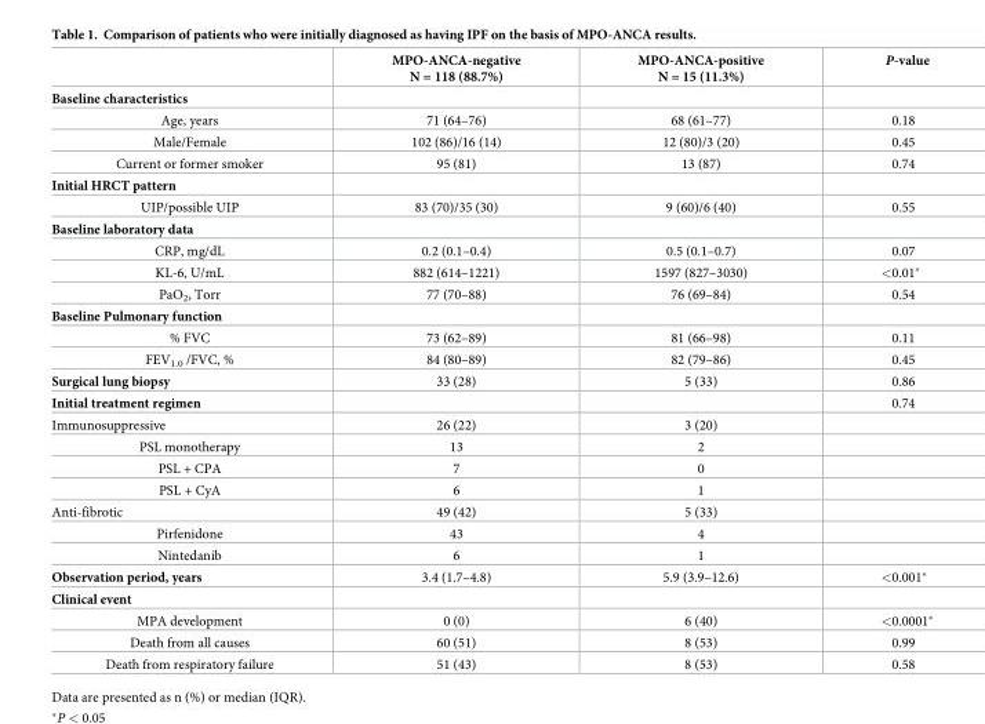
<table><thead><tr><td></td><td>MPO-ANCA-negative N = 118 (88.7%)</td><td>MPO-ANCA-positive N = 15 (11.3%)</td><td>P-value</td></tr></thead><tbody><tr><td colspan="4">Baseline characteristics</td></tr><tr><td>Age, years</td><td>71 (64–76)</td><td>68 (61–77)</td><td>0.18</td></tr><tr><td>Male/Female</td><td>102 (86)/16 (14)</td><td>12 (80)/3 (20)</td><td>0.45</td></tr><tr><td>Current or former smoker</td><td>95 (81)</td><td>13 (87)</td><td>0.74</td></tr><tr><td colspan="4">Initial HRCT pattern</td></tr><tr><td>UIP/possible UIP</td><td>83 (70)/35 (30)</td><td>9 (60)/6 (40)</td><td>0.55</td></tr><tr><td colspan="4">Baseline laboratory data</td></tr><tr><td>CRP, mg/dL</td><td>0.2 (0.1–0.4)</td><td>0.5 (0.1–0.7)</td><td>0.07</td></tr><tr><td>KL-6, U/mL</td><td>882 (614–1221)</td><td>1597 (827–3030)</td><td>&lt;0.01*</td></tr><tr><td>PaO<sub>2</sub>, Torr</td><td>77 (70–88)</td><td>76 (69–84)</td><td>0.54</td></tr><tr><td colspan="4">Baseline Pulmonary function</td></tr><tr><td>% FVC</td><td>73 (62–89)</td><td>81 (66–98)</td><td>0.11</td></tr><tr><td>FEV<sub>1.0</sub> /FVC, %</td><td>84 (80–89)</td><td>82 (79–86)</td><td>0.45</td></tr><tr><td>Surgical lung biopsy</td><td>33 (28)</td><td>5 (33)</td><td>0.86</td></tr><tr><td>Initial treatment regimen</td><td></td><td></td><td>0.74</td></tr><tr><td>Immunosuppressive</td><td>26 (22)</td><td>3 (20)</td><td></td></tr><tr><td>PSL monotherapy</td><td>13</td><td>2</td><td></td></tr><tr><td>PSL + CPA</td><td>7</td><td>0</td><td></td></tr><tr><td>PSL + CyA</td><td>6</td><td>1</td><td></td></tr><tr><td>Anti-fibrotic</td><td>49 (42)</td><td>5 (33)</td><td></td></tr><tr><td>Pirfenidone</td><td>43</td><td>4</td><td></td></tr><tr><td>Nintedanib</td><td>6</td><td>1</td><td></td></tr><tr><td>Observation period, years</td><td>3.4 (1.7–4.8)</td><td>5.9 (3.9–12.6)</td><td>&lt;0.001*</td></tr><tr><td colspan="4">Clinical event</td></tr><tr><td>MPA development</td><td>0 (0)</td><td>6 (40)</td><td>&lt;0.0001*</td></tr><tr><td>Death from all causes</td><td>60 (51)</td><td>8 (53)</td><td>0.99</td></tr><tr><td>Death from respiratory failure</td><td>51 (43)</td><td>8 (53)</td><td>0.58</td></tr></tbody></table>